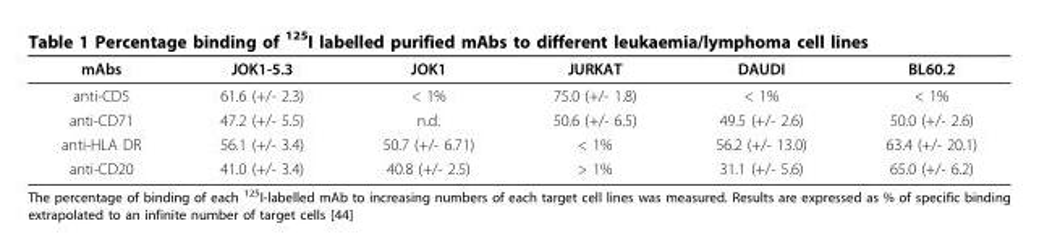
<table><thead><tr><td>mAbs</td><td>JOK1-5.3</td><td>JOK1</td><td>JURKAT</td><td>DAUDI</td><td>BL60.2</td></tr></thead><tbody><tr><td>anti-CD5</td><td>61.6 (+/- 2.3)</td><td>&lt; 1%</td><td>75.0 (+/- 1.8)</td><td>&lt; 1%</td><td>&lt; 1%</td></tr><tr><td>anti-CD71</td><td>47.2 (+/- 5.5)</td><td>n.d.</td><td>50.6 (+/- 6.5)</td><td>49.5 (+/- 2.6)</td><td>50.0 (+/- 2.6)</td></tr><tr><td>anti-HLA DR</td><td>56.1 (+/- 3.4)</td><td>50.7 (+/- 6.71)</td><td>&lt; 1%</td><td>56.2 (+/- 13.0)</td><td>63.4 (+/- 20.1)</td></tr><tr><td>anti-CD20</td><td>41.0 (+/- 3.4)</td><td>40.8 (+/- 2.5)</td><td>&gt; 1%</td><td>31.1 (+/- 5.6)</td><td>65.0 (+/- 6.2)</td></tr></tbody></table>